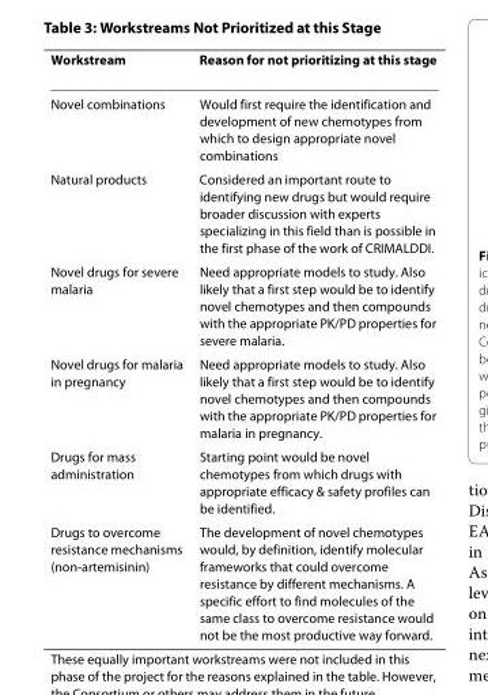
<table><thead><tr><td>Workstream</td><td>Reason for not prioritizing at this stage</td></tr></thead><tbody><tr><td>Novel combinations</td><td>Would first require the identification and development of new chemotypes from which to design appropriate novel combinations</td></tr><tr><td>Natural products</td><td>Considered an important route to identifying new drugs but would require broader discussion with experts specializing in this field than is possible in the first phase of the work of CRIMALDDI.</td></tr><tr><td>Novel drugs for severe malaria</td><td>Need appropriate models to study. Also likely that a first step would be to identify novel chemotypes and then compounds with the appropriate PK/PD properties for severe malaria.</td></tr><tr><td>Novel drugs for malaria in pregnancy</td><td>Need appropriate models to study. Also likely that a first step would be to identify novel chemotypes and then compounds with the appropriate PK/PD properties for malaria in pregnancy.</td></tr><tr><td>Drugs for mass administration</td><td>Starting point would be novel chemotypes from which drugs with appropriate efficacy &amp; safety profiles can be identified.</td></tr><tr><td>Drugs to overcome resistance mechanisms (non-artemisinin)</td><td>The development of novel chemotypes would, by definition, identify molecular frameworks that could overcome resistance by different mechanisms. A specific effort to find molecules of the same class to overcome resistance would not be the most productive way forward.</td></tr></tbody></table>